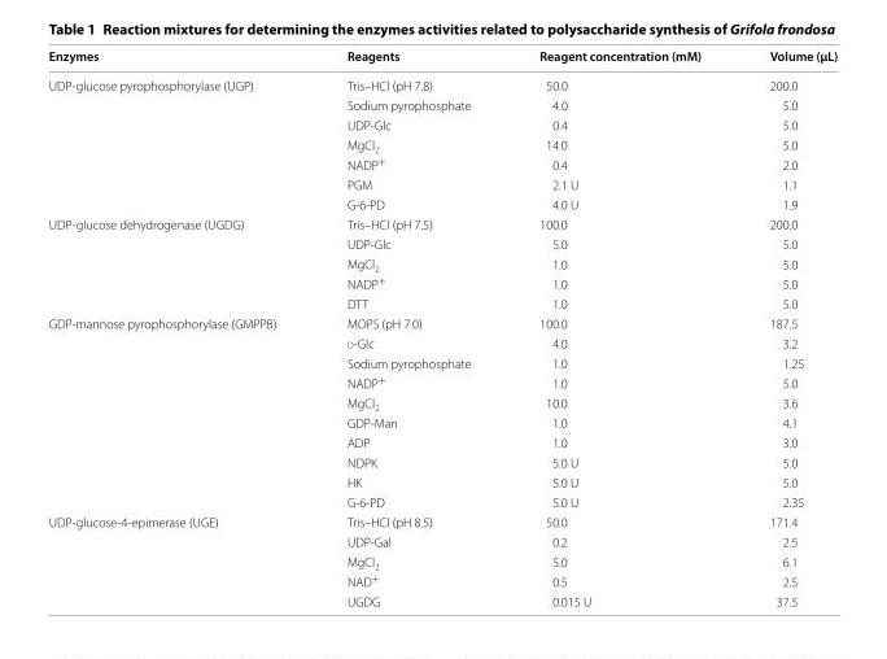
<table><thead><tr><td>Enzymes</td><td>Reagents</td><td>Reagent concentration (mM)</td><td>Volume (μL)</td></tr></thead><tbody><tr><td rowspan="7">UDP‑glucose pyrophosphorylase (UGP)</td><td>Tris–HCl (pH 7.8)</td><td>50.0</td><td>200.0</td></tr><tr><td>Sodium pyrophosphate</td><td>4.0</td><td>5.0</td></tr><tr><td>UDP‑Glc</td><td>0.4</td><td>5.0</td></tr><tr><td>MgCl<sub>2</sub></td><td>14.0</td><td>5.0</td></tr><tr><td>NADP<sup>+</sup></td><td>0.4</td><td>2.0</td></tr><tr><td>PGM</td><td>2.1 U</td><td>1.1</td></tr><tr><td>G‑6‑PD</td><td>4.0 U</td><td>1.9</td></tr><tr><td rowspan="5">UDP‑glucose dehydrogenase (UGDG)</td><td>Tris–HCl (pH 7.5)</td><td>100.0</td><td>200.0</td></tr><tr><td>UDP‑Glc</td><td>5.0</td><td>5.0</td></tr><tr><td>MgCl<sub>2</sub></td><td>1.0</td><td>5.0</td></tr><tr><td>NADP<sup>+</sup></td><td>1.0</td><td>5.0</td></tr><tr><td>DTT</td><td>1.0</td><td>5.0</td></tr><tr><td rowspan="10">GDP‑mannose pyrophosphorylase (GMPPB)</td><td>MOPS (pH 7.0)</td><td>100.0</td><td>187.5</td></tr><tr><td>d‑Glc</td><td>4.0</td><td>3.2</td></tr><tr><td>Sodium pyrophosphate</td><td>1.0</td><td>1.25</td></tr><tr><td>NADP<sup>+</sup></td><td>1.0</td><td>5.0</td></tr><tr><td>MgCl<sub>2</sub></td><td>10.0</td><td>3.6</td></tr><tr><td>GDP‑Man</td><td>1.0</td><td>4.1</td></tr><tr><td>ADP</td><td>1.0</td><td>3.0</td></tr><tr><td>NDPK</td><td>5.0 U</td><td>5.0</td></tr><tr><td>HK</td><td>5.0 U</td><td>5.0</td></tr><tr><td>G‑6‑PD</td><td>5.0 U</td><td>2.35</td></tr><tr><td rowspan="5">UDP‑glucose‑4‑epimerase (UGE)</td><td>Tris–HCl (pH 8.5)</td><td>50.0</td><td>171.4</td></tr><tr><td>UDP‑Gal</td><td>0.2</td><td>2.5</td></tr><tr><td>MgCl<sub>2</sub></td><td>5.0</td><td>6.1</td></tr><tr><td>NAD<sup>+</sup></td><td>0.5</td><td>2.5</td></tr><tr><td>UGDG</td><td>0.015 U</td><td>37.5</td></tr></tbody></table>